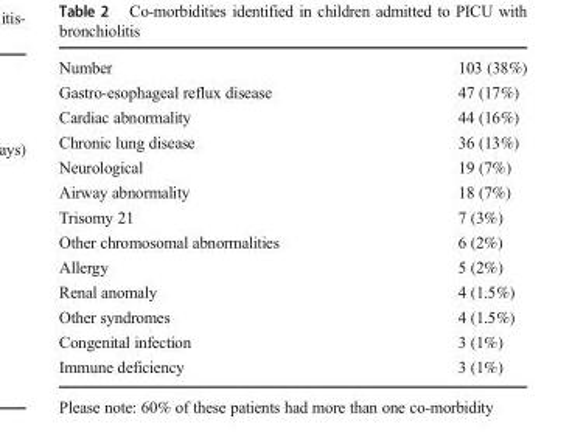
<table><tbody><tr><td>Number</td><td>103 (38%)</td></tr><tr><td>Gastro-esophageal reflux disease</td><td>47 (17%)</td></tr><tr><td>Cardiac abnormality</td><td>44 (16%)</td></tr><tr><td>Chronic lung disease</td><td>36 (13%)</td></tr><tr><td>Neurological</td><td>19 (7%)</td></tr><tr><td>Airway abnormality</td><td>18 (7%)</td></tr><tr><td>Trisomy 21</td><td>7 (3%)</td></tr><tr><td>Other chromosomal abnormalities</td><td>6 (2%)</td></tr><tr><td>Allergy</td><td>5 (2%)</td></tr><tr><td>Renal anomaly</td><td>4 (1.5%)</td></tr><tr><td>Other syndromes</td><td>4 (1.5%)</td></tr><tr><td>Congenital infection</td><td>3 (1%)</td></tr><tr><td>Immune deficiency</td><td>3 (1%)</td></tr></tbody></table>